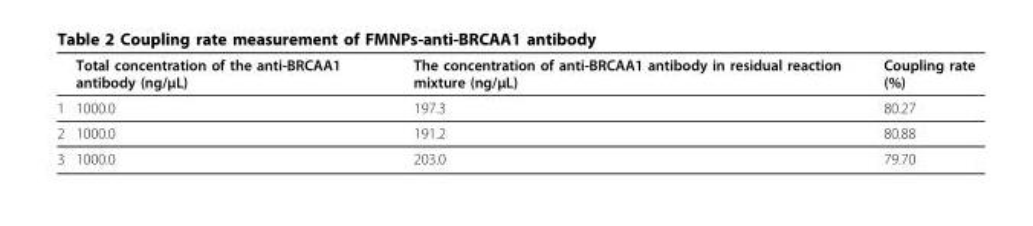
<table><thead><tr><td></td><td>Total concentration of the anti-BRCAA1 antibody (ng/μL)</td><td>The concentration of anti-BRCAA1 antibody in residual reaction mixture (ng/μL)</td><td>Coupling rate (%)</td></tr></thead><tbody><tr><td>1</td><td>1000.0</td><td>197.3</td><td>80.27</td></tr><tr><td>2</td><td>1000.0</td><td>191.2</td><td>80.88</td></tr><tr><td>3</td><td>1000.0</td><td>203.0</td><td>79.70</td></tr></tbody></table>